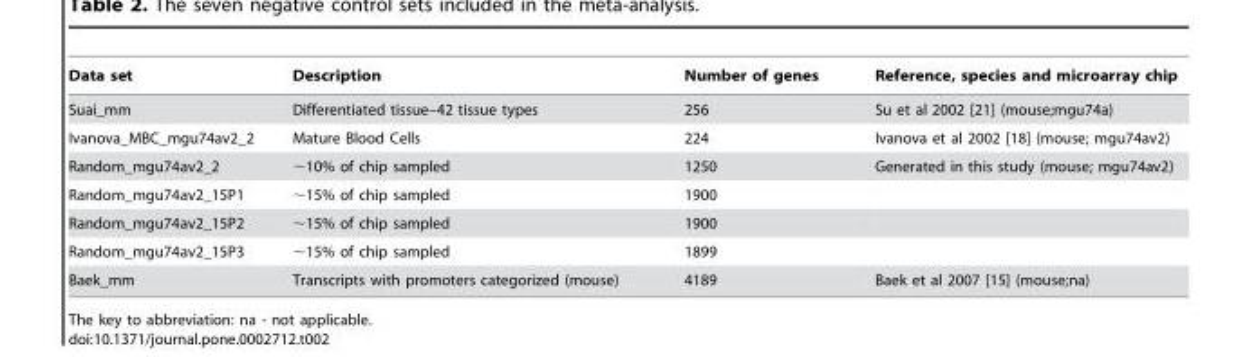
<table><thead><tr><td>Data set</td><td>Description</td><td>Number of genes</td><td>Reference, species and microarray chip</td></tr></thead><tbody><tr><td>Suai_mm</td><td>Differentiated tissue–42 tissue types</td><td>256</td><td>Su et al 2002 [21] (mouse;mgu74a)</td></tr><tr><td>Ivanova_MBC_mgu74av2_2</td><td>Mature Blood Cells</td><td>224</td><td>Ivanova et al 2002 [18] (mouse; mgu74av2)</td></tr><tr><td>Random_mgu74av2_2</td><td>∼10% of chip sampled</td><td>1250</td><td>Generated in this study (mouse; mgu74av2)</td></tr><tr><td>Random_mgu74av2_15P1</td><td>∼15% of chip sampled</td><td>1900</td><td></td></tr><tr><td>Random_mgu74av2_15P2</td><td>∼15% of chip sampled</td><td>1900</td><td></td></tr><tr><td>Random_mgu74av2_15P3</td><td>∼15% of chip sampled</td><td>1899</td><td></td></tr><tr><td>Baek_mm</td><td>Transcripts with promoters categorized (mouse)</td><td>4189</td><td>Baek et al 2007 [15] (mouse;na)</td></tr></tbody></table>